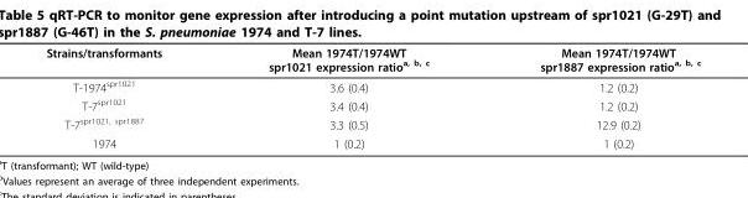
<table><thead><tr><td>Strains/transformants</td><td>Mean 1974T/1974WT spr1021 expression ratio<sup>a, b, c</sup></td><td>Mean 1974T/1974WT spr1887 expression ratio<sup>a, b, c</sup></td></tr></thead><tbody><tr><td>T-1974<sup>spr1021</sup></td><td>3.6 (0.4)</td><td>1.2 (0.2)</td></tr><tr><td>T-7<sup>spr1021</sup></td><td>3.4 (0.4)</td><td>1.2 (0.2)</td></tr><tr><td>T-7<sup>spr1021, spr1887</sup></td><td>3.3 (0.5)</td><td>12.9 (0.2)</td></tr><tr><td>1974</td><td>1 (0.2)</td><td>1 (0.2)</td></tr></tbody></table>